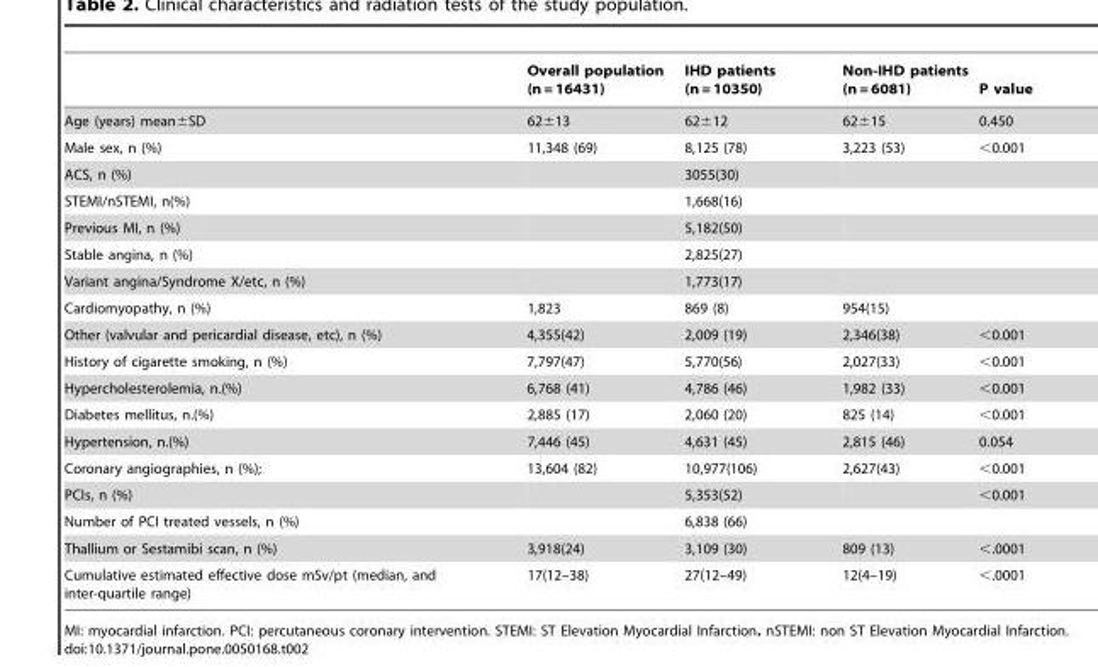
<table><thead><tr><td></td><td>Overall population (n = 16431)</td><td>IHD patients (n = 10350)</td><td>Non-IHD patients (n = 6081)</td><td>P value</td></tr></thead><tbody><tr><td>Age (years) mean±SD</td><td>62±13</td><td>62±12</td><td>62±15</td><td>0.450</td></tr><tr><td>Male sex, n (%)</td><td>11,348 (69)</td><td>8,125 (78)</td><td>3,223 (53)</td><td>&lt;0.001</td></tr><tr><td>ACS, n (%)</td><td></td><td>3055(30)</td><td></td><td></td></tr><tr><td>STEMI/nSTEMI, n(%)</td><td></td><td>1,668(16)</td><td></td><td></td></tr><tr><td>Previous MI, n (%)</td><td></td><td>5,182(50)</td><td></td><td></td></tr><tr><td>Stable angina, n (%)</td><td></td><td>2,825(27)</td><td></td><td></td></tr><tr><td>Variant angina/Syndrome X/etc, n (%)</td><td></td><td>1,773(17)</td><td></td><td></td></tr><tr><td>Cardiomyopathy, n (%)</td><td>1,823</td><td>869 (8)</td><td>954(15)</td><td></td></tr><tr><td>Other (valvular and pericardial disease, etc), n (%)</td><td>4,355(42)</td><td>2,009 (19)</td><td>2,346(38)</td><td>&lt;0.001</td></tr><tr><td>History of cigarette smoking, n (%)</td><td>7,797(47)</td><td>5,770(56)</td><td>2,027(33)</td><td>&lt;0.001</td></tr><tr><td>Hypercholesterolemia, n.(%)</td><td>6,768 (41)</td><td>4,786 (46)</td><td>1,982 (33)</td><td>&lt;0.001</td></tr><tr><td>Diabetes mellitus, n.(%)</td><td>2,885 (17)</td><td>2,060 (20)</td><td>825 (14)</td><td>&lt;0.001</td></tr><tr><td>Hypertension, n.(%)</td><td>7,446 (45)</td><td>4,631 (45)</td><td>2,815 (46)</td><td>0.054</td></tr><tr><td>Coronary angiographies, n (%);</td><td>13,604 (82)</td><td>10,977(106)</td><td>2,627(43)</td><td>&lt;0.001</td></tr><tr><td>PCIs, n (%)</td><td></td><td>5,353(52)</td><td></td><td>&lt;0.001</td></tr><tr><td>Number of PCI treated vessels, n (%)</td><td></td><td>6,838 (66)</td><td></td><td></td></tr><tr><td>Thallium or Sestamibi scan, n (%)</td><td>3,918(24)</td><td>3,109 (30)</td><td>809 (13)</td><td>&lt;.0001</td></tr><tr><td>Cumulative estimated effective dose mSv/pt (median, and inter-quartile range)</td><td>17(12–38)</td><td>27(12–49)</td><td>12(4–19)</td><td>&lt;.0001</td></tr></tbody></table>